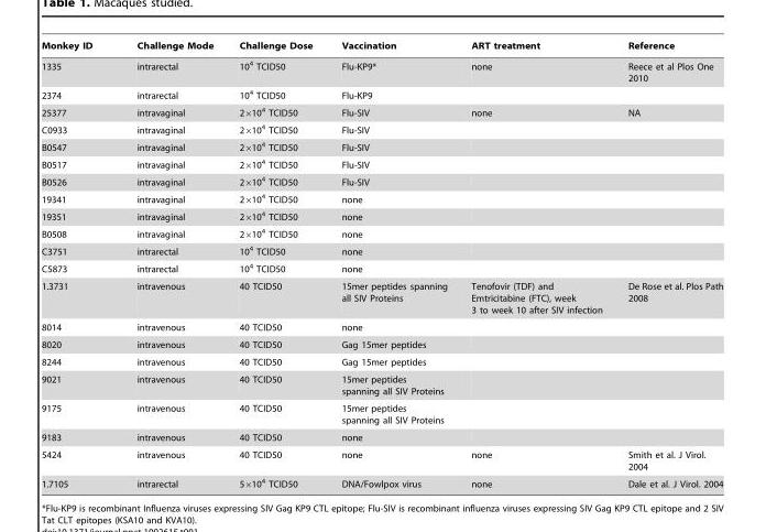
<table><thead><tr><td>Monkey ID</td><td>Challenge Mode</td><td>Challenge Dose</td><td>Vaccination</td><td>ART treatment</td><td>Reference</td></tr></thead><tbody><tr><td>1335</td><td>intrarectal</td><td>10<sup>4</sup> TCID50</td><td>Flu-KP9*</td><td>none</td><td>Reece et al Plos One 2010</td></tr><tr><td>2374</td><td>intrarectal</td><td>10<sup>4</sup> TCID50</td><td>Flu-KP9</td><td></td><td></td></tr><tr><td>25377</td><td>intravaginal</td><td>2×10<sup>4</sup> TCID50</td><td>Flu-SIV</td><td>none</td><td>NA</td></tr><tr><td>C0933</td><td>intravaginal</td><td>2×10<sup>4</sup> TCID50</td><td>Flu-SIV</td><td></td><td></td></tr><tr><td>B0547</td><td>intravaginal</td><td>2×10<sup>4</sup> TCID50</td><td>Flu-SIV</td><td></td><td></td></tr><tr><td>B0517</td><td>intravaginal</td><td>2×10<sup>4</sup> TCID50</td><td>Flu-SIV</td><td></td><td></td></tr><tr><td>B0526</td><td>intravaginal</td><td>2×10<sup>4</sup> TCID50</td><td>Flu-SIV</td><td></td><td></td></tr><tr><td>19341</td><td>intravaginal</td><td>2×10<sup>4</sup> TCID50</td><td>none</td><td></td><td></td></tr><tr><td>19351</td><td>intravaginal</td><td>2×10<sup>4</sup> TCID50</td><td>none</td><td></td><td></td></tr><tr><td>B0508</td><td>intravaginal</td><td>2×10<sup>4</sup> TCID50</td><td>none</td><td></td><td></td></tr><tr><td>C3751</td><td>intrarectal</td><td>10<sup>4</sup> TCID50</td><td>none</td><td></td><td></td></tr><tr><td>C5873</td><td>intrarectal</td><td>10<sup>4</sup> TCID50</td><td>none</td><td></td><td></td></tr><tr><td>1.3731</td><td>intravenous</td><td>40 TCID50</td><td>15mer peptides spanning all SIV Proteins</td><td>Tenofovir (TDF) and Emtricitabine (FTC), week 3 to week 10 after SIV infection</td><td>De Rose et al. Plos Path 2008</td></tr><tr><td>8014</td><td>intravenous</td><td>40 TCID50</td><td>none</td><td></td><td></td></tr><tr><td>8020</td><td>intravenous</td><td>40 TCID50</td><td>Gag 15mer peptides</td><td></td><td></td></tr><tr><td>8244</td><td>intravenous</td><td>40 TCID50</td><td>Gag 15mer peptides</td><td></td><td></td></tr><tr><td>9021</td><td>intravenous</td><td>40 TCID50</td><td>15mer peptides spanning all SIV Proteins</td><td></td><td></td></tr><tr><td>9175</td><td>intravenous</td><td>40 TCID50</td><td>15mer peptides spanning all SIV Proteins</td><td></td><td></td></tr><tr><td>9183</td><td>intravenous</td><td>40 TCID50</td><td>none</td><td></td><td></td></tr><tr><td>5424</td><td>intravenous</td><td>40 TCID50</td><td>none</td><td>none</td><td>Smith et al. J Virol. 2004</td></tr><tr><td>1.7105</td><td>intrarectal</td><td>5×10<sup>4</sup> TCID50</td><td>DNA/Fowlpox virus</td><td>none</td><td>Dale et al. J Virol. 2004</td></tr></tbody></table>